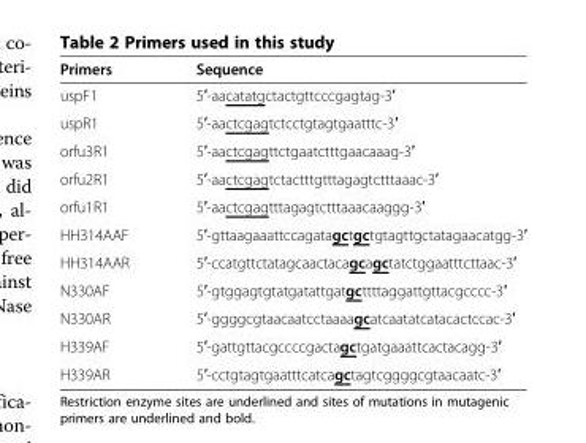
<table><thead><tr><td>Primers</td><td>Sequence</td></tr></thead><tbody><tr><td>uspF1</td><td>5′-aacatatgctactgttcccgagtag-3′</td></tr><tr><td>uspR1</td><td>5′-aactcgagtctcctgtagtgaatttc-3′</td></tr><tr><td>orfu3R1</td><td>5′-aactcgagttctgaatctttgaacaaag-3′</td></tr><tr><td>orfu2R1</td><td>5′-aactcgagtctactttgtttagagtctttaaac-3′</td></tr><tr><td>orfu1R1</td><td>5′-aactcgagtttagagtctttaaacaaggg-3′</td></tr><tr><td>HH314AAF</td><td>5′-gttaagaaattccagatagctgctgtagttgctatagaacatgg-3′</td></tr><tr><td>HH314AAR</td><td>5′-ccatgttctatagcaactacagcagctatctggaatttcttaac-3′</td></tr><tr><td>N330AF</td><td>5′-gtggagtgtatgatattgatgcttttaggattgttacgcccc-3′</td></tr><tr><td>N330AR</td><td>5′-ggggcgtaacaatcctaaaagcatcaatatcatacactccac-3′</td></tr><tr><td>H339AF</td><td>5′-gattgttacgccccgactagctgatgaaattcactacagg-3′</td></tr><tr><td>H339AR</td><td>5′-cctgtagtgaatttcatcagctagtcggggcgtaacaatc-3′</td></tr></tbody></table>